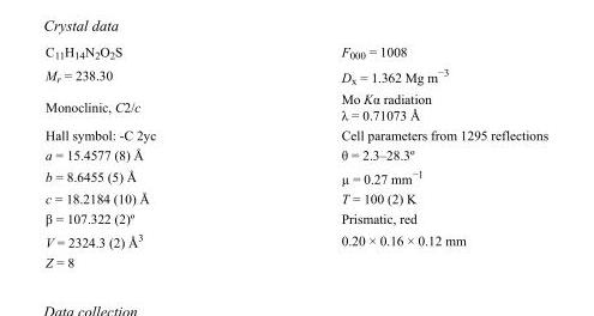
<table><tbody><tr><td>C<sub>11</sub>H<sub>14</sub>N<sub>2</sub>O<sub>2</sub>S</td><td>F000 = 1008</td></tr><tr><td>M<sub>r</sub> = 238.30</td><td>D<sub>x</sub> = 1.362 Mg m<sup>−3</sup></td></tr><tr><td>Monoclinic, C2/c</td><td>Mo Kα radiation λ = 0.71073 Å</td></tr><tr><td>Hall symbol: -C 2yc</td><td>Cell parameters from 1295 reflections</td></tr><tr><td>a = 15.4577 (8) Å</td><td>θ = 2.3–28.3º</td></tr><tr><td>b = 8.6455 (5) Å</td><td>µ = 0.27 mm<sup>−1</sup></td></tr><tr><td>c = 18.2184 (10) Å</td><td>T = 100 (2) K</td></tr><tr><td>β = 107.322 (2)º</td><td>Prismatic, red</td></tr><tr><td>V = 2324.3 (2) Å<sup>3</sup></td><td>0.20 × 0.16 × 0.12 mm</td></tr><tr><td>Z = 8</td><td></td></tr></tbody></table>